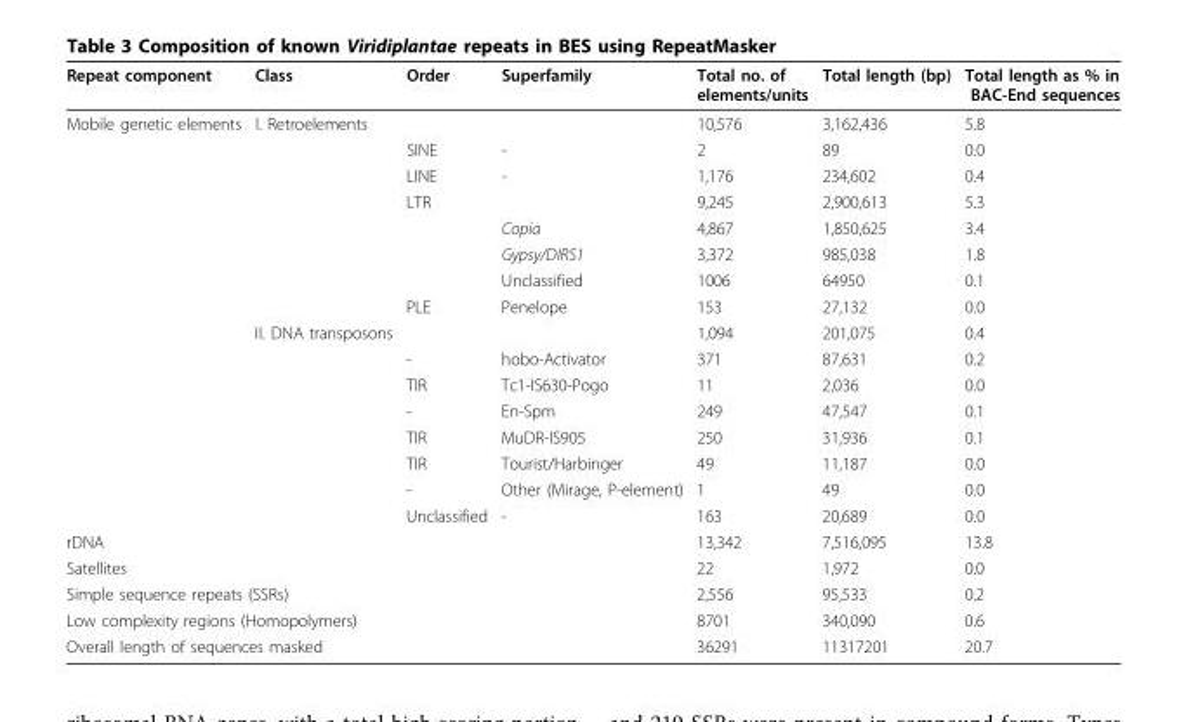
<table><thead><tr><td>Repeat component</td><td>Class</td><td>Order</td><td>Superfamily</td><td>Total no. of elements/units</td><td>Total length (bp)</td><td>Total length as % in BAC-End sequences</td></tr></thead><tbody><tr><td rowspan="16">Mobile genetic elements</td><td>I. Retroelements</td><td></td><td></td><td>10,576</td><td>3,162,436</td><td>5.8</td></tr><tr><td></td><td>SINE</td><td>-</td><td>2</td><td>89</td><td>0.0</td></tr><tr><td></td><td>LINE</td><td>-</td><td>1,176</td><td>234,602</td><td>0.4</td></tr><tr><td></td><td>LTR</td><td></td><td>9,245</td><td>2,900,613</td><td>5.3</td></tr><tr><td></td><td></td><td>Copia</td><td>4,867</td><td>1,850,625</td><td>3.4</td></tr><tr><td></td><td></td><td>Gypsy/DIRS1</td><td>3,372</td><td>985,038</td><td>1.8</td></tr><tr><td></td><td></td><td>Unclassified</td><td>1006</td><td>64950</td><td>0.1</td></tr><tr><td></td><td>PLE</td><td>Penelope</td><td>153</td><td>27,132</td><td>0.0</td></tr><tr><td>II. DNA transposons</td><td></td><td></td><td>1,094</td><td>201,075</td><td>0.4</td></tr><tr><td></td><td>-</td><td>hobo-Activator</td><td>371</td><td>87,631</td><td>0.2</td></tr><tr><td></td><td>TIR</td><td>Tc1-IS630-Pogo</td><td>11</td><td>2,036</td><td>0.0</td></tr><tr><td></td><td>-</td><td>En-Spm</td><td>249</td><td>47,547</td><td>0.1</td></tr><tr><td></td><td>TIR</td><td>MuDR-IS905</td><td>250</td><td>31,936</td><td>0.1</td></tr><tr><td></td><td>TIR</td><td>Tourist/Harbinger</td><td>49</td><td>11,187</td><td>0.0</td></tr><tr><td></td><td>-</td><td>Other (Mirage, P-element)</td><td>1</td><td>49</td><td>0.0</td></tr><tr><td></td><td>Unclassified</td><td>-</td><td>163</td><td>20,689</td><td>0.0</td></tr><tr><td>rDNA</td><td></td><td></td><td></td><td>13,342</td><td>7,516,095</td><td>13.8</td></tr><tr><td>Satellites</td><td></td><td></td><td></td><td>22</td><td>1,972</td><td>0.0</td></tr><tr><td colspan="2">Simple sequence repeats (SSRs)</td><td></td><td></td><td>2,556</td><td>95,533</td><td>0.2</td></tr><tr><td colspan="3">Low complexity regions (Homopolymers)</td><td></td><td>8701</td><td>340,090</td><td>0.6</td></tr><tr><td colspan="2">Overall length of sequences masked</td><td></td><td></td><td>36291</td><td>11317201</td><td>20.7</td></tr></tbody></table>